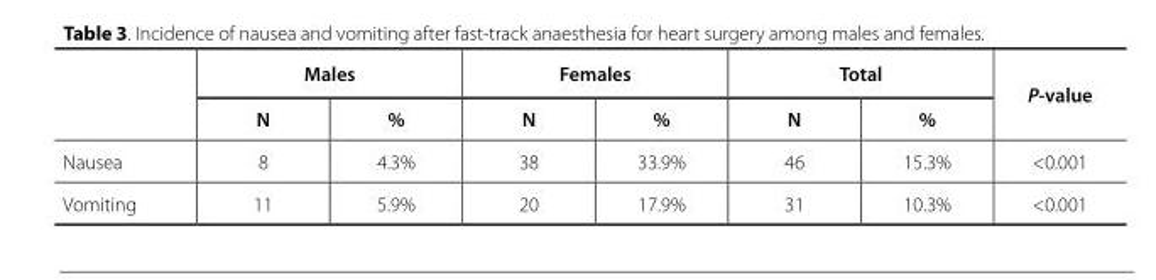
<table><thead><tr><td rowspan="2"></td><td colspan="2">Males</td><td colspan="2">Females</td><td colspan="2">Total</td><td rowspan="2">P-value</td></tr><tr><td>N</td><td>%</td><td>N</td><td>%</td><td>N</td><td>%</td></tr></thead><tbody><tr><td>Nausea</td><td>8</td><td>4.3%</td><td>38</td><td>33.9%</td><td>46</td><td>15.3%</td><td>&lt;0.001</td></tr><tr><td>Vomiting</td><td>11</td><td>5.9%</td><td>20</td><td>17.9%</td><td>31</td><td>10.3%</td><td>&lt;0.001</td></tr></tbody></table>